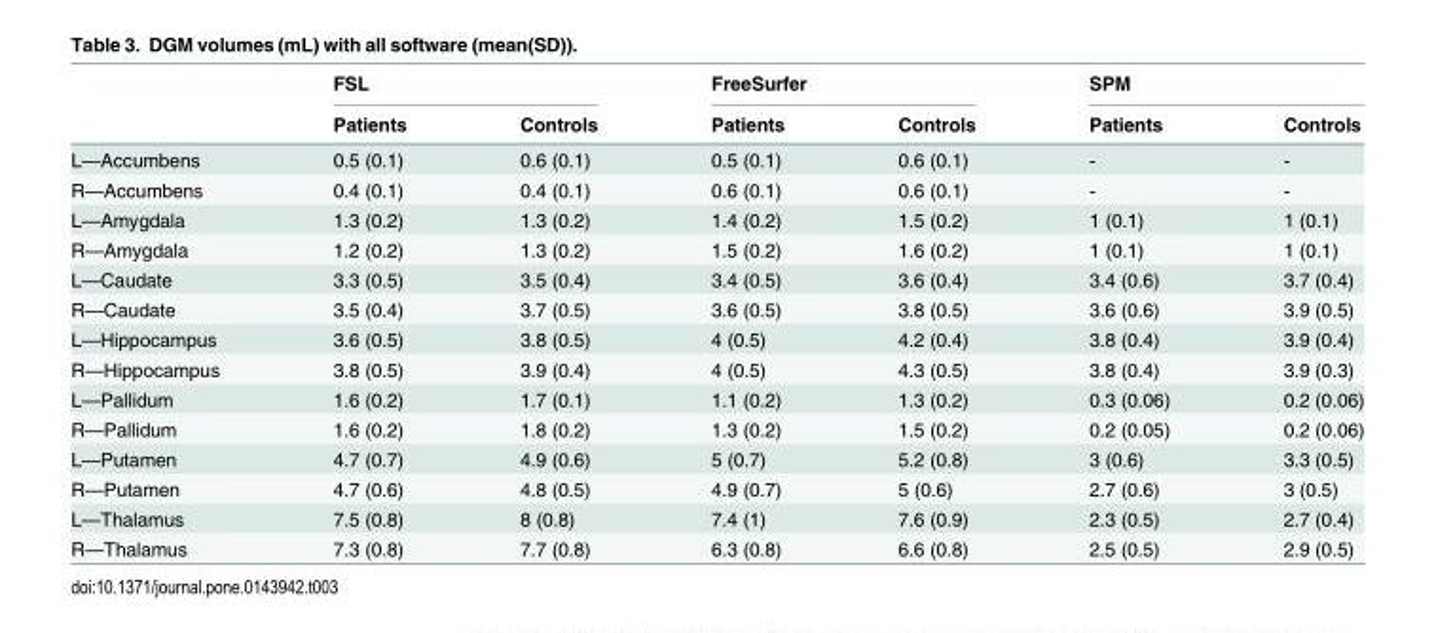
<table><thead><tr><td rowspan="2"></td><td colspan="2">FSL</td><td colspan="2">FreeSurfer</td><td colspan="2">SPM</td></tr><tr><td>Patients</td><td>Controls</td><td>Patients</td><td>Controls</td><td>Patients</td><td>Controls</td></tr></thead><tbody><tr><td>L—Accumbens</td><td>0.5 (0.1)</td><td>0.6 (0.1)</td><td>0.5 (0.1)</td><td>0.6 (0.1)</td><td>-</td><td>-</td></tr><tr><td>R—Accumbens</td><td>0.4 (0.1)</td><td>0.4 (0.1)</td><td>0.6 (0.1)</td><td>0.6 (0.1)</td><td>-</td><td>-</td></tr><tr><td>L—Amygdala</td><td>1.3 (0.2)</td><td>1.3 (0.2)</td><td>1.4 (0.2)</td><td>1.5 (0.2)</td><td>1 (0.1)</td><td>1 (0.1)</td></tr><tr><td>R—Amygdala</td><td>1.2 (0.2)</td><td>1.3 (0.2)</td><td>1.5 (0.2)</td><td>1.6 (0.2)</td><td>1 (0.1)</td><td>1 (0.1)</td></tr><tr><td>L—Caudate</td><td>3.3 (0.5)</td><td>3.5 (0.4)</td><td>3.4 (0.5)</td><td>3.6 (0.4)</td><td>3.4 (0.6)</td><td>3.7 (0.4)</td></tr><tr><td>R—Caudate</td><td>3.5 (0.4)</td><td>3.7 (0.5)</td><td>3.6 (0.5)</td><td>3.8 (0.5)</td><td>3.6 (0.6)</td><td>3.9 (0.5)</td></tr><tr><td>L—Hippocampus</td><td>3.6 (0.5)</td><td>3.8 (0.5)</td><td>4 (0.5)</td><td>4.2 (0.4)</td><td>3.8 (0.4)</td><td>3.9 (0.4)</td></tr><tr><td>R—Hippocampus</td><td>3.8 (0.5)</td><td>3.9 (0.4)</td><td>4 (0.5)</td><td>4.3 (0.5)</td><td>3.8 (0.4)</td><td>3.9 (0.3)</td></tr><tr><td>L—Pallidum</td><td>1.6 (0.2)</td><td>1.7 (0.1)</td><td>1.1 (0.2)</td><td>1.3 (0.2)</td><td>0.3 (0.06)</td><td>0.2 (0.06)</td></tr><tr><td>R—Pallidum</td><td>1.6 (0.2)</td><td>1.8 (0.2)</td><td>1.3 (0.2)</td><td>1.5 (0.2)</td><td>0.2 (0.05)</td><td>0.2 (0.06)</td></tr><tr><td>L—Putamen</td><td>4.7 (0.7)</td><td>4.9 (0.6)</td><td>5 (0.7)</td><td>5.2 (0.8)</td><td>3 (0.6)</td><td>3.3 (0.5)</td></tr><tr><td>R—Putamen</td><td>4.7 (0.6)</td><td>4.8 (0.5)</td><td>4.9 (0.7)</td><td>5 (0.6)</td><td>2.7 (0.6)</td><td>3 (0.5)</td></tr><tr><td>L—Thalamus</td><td>7.5 (0.8)</td><td>8 (0.8)</td><td>7.4 (1)</td><td>7.6 (0.9)</td><td>2.3 (0.5)</td><td>2.7 (0.4)</td></tr><tr><td>R—Thalamus</td><td>7.3 (0.8)</td><td>7.7 (0.8)</td><td>6.3 (0.8)</td><td>6.6 (0.8)</td><td>2.5 (0.5)</td><td>2.9 (0.5)</td></tr></tbody></table>